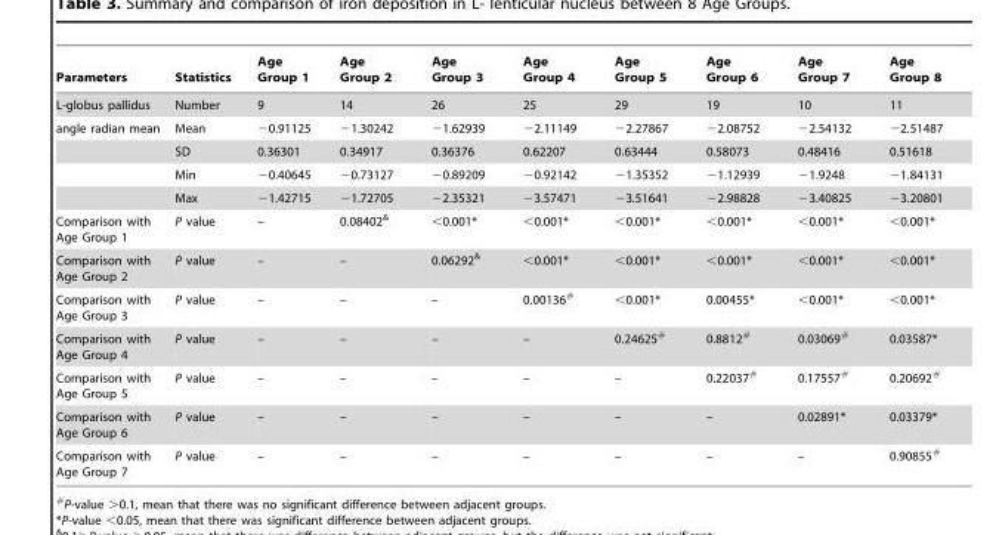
<table><thead><tr><td>Parameters</td><td>Statistics</td><td>Age Group 1</td><td>Age Group 2</td><td>Age Group 3</td><td>Age Group 4</td><td>Age Group 5</td><td>Age Group 6</td><td>Age Group 7</td><td>Age Group 8</td></tr></thead><tbody><tr><td>L-globus pallidus</td><td>Number</td><td>9</td><td>14</td><td>26</td><td>25</td><td>29</td><td>19</td><td>10</td><td>11</td></tr><tr><td rowspan="4">angle radian mean</td><td>Mean</td><td>−0.91125</td><td>−1.30242</td><td>−1.62939</td><td>−2.11149</td><td>−2.27867</td><td>−2.08752</td><td>−2.54132</td><td>−2.51487</td></tr><tr><td>SD</td><td>0.36301</td><td>0.34917</td><td>0.36376</td><td>0.62207</td><td>0.63444</td><td>0.58073</td><td>0.48416</td><td>0.51618</td></tr><tr><td>Min</td><td>−0.40645</td><td>−0.73127</td><td>−0.89209</td><td>−0.92142</td><td>−1.35352</td><td>−1.12939</td><td>−1.9248</td><td>−1.84131</td></tr><tr><td>Max</td><td>−1.42715</td><td>−1.72705</td><td>−2.35321</td><td>−3.57471</td><td>−3.51641</td><td>−2.98828</td><td>−3.40825</td><td>−3.20801</td></tr><tr><td>Comparison with Age Group 1</td><td>P value</td><td>–</td><td>0.08402&amp;</td><td>&lt;0.001*</td><td>&lt;0.001*</td><td>&lt;0.001*</td><td>&lt;0.001*</td><td>&lt;0.001*</td><td>&lt;0.001*</td></tr><tr><td>Comparison with Age Group 2</td><td>P value</td><td>–</td><td>–</td><td>0.06292&amp;</td><td>&lt;0.001*</td><td>&lt;0.001*</td><td>&lt;0.001*</td><td>&lt;0.001*</td><td>&lt;0.001*</td></tr><tr><td>Comparison with Age Group 3</td><td>P value</td><td>–</td><td>–</td><td>–</td><td>0.00136#</td><td>&lt;0.001*</td><td>0.00455*</td><td>&lt;0.001*</td><td>&lt;0.001*</td></tr><tr><td>Comparison with Age Group 4</td><td>P value</td><td>–</td><td>–</td><td>–</td><td>–</td><td>0.24625#</td><td>0.8812#</td><td>0.03069#</td><td>0.03587*</td></tr><tr><td>Comparison with Age Group 5</td><td>P value</td><td>–</td><td>–</td><td>–</td><td>–</td><td>–</td><td>0.22037#</td><td>0.17557#</td><td>0.20692#</td></tr><tr><td>Comparison with Age Group 6</td><td>P value</td><td>–</td><td>–</td><td>–</td><td>–</td><td>–</td><td>–</td><td>0.02891*</td><td>0.03379*</td></tr><tr><td>Comparison with Age Group 7</td><td>P value</td><td>–</td><td>–</td><td>–</td><td>–</td><td>–</td><td>–</td><td>–</td><td>0.90855#</td></tr></tbody></table>